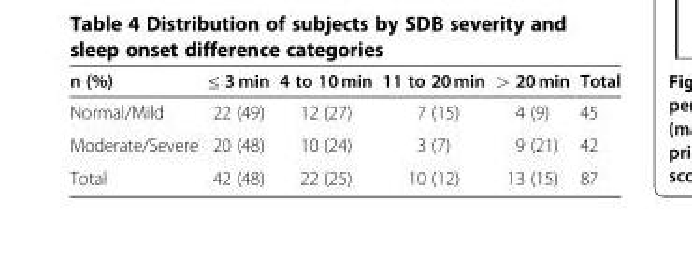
<table><thead><tr><td>n (%)</td><td>≤ 3 min</td><td>4 to 10 min</td><td>11 to 20 min</td><td>&gt; 20 min</td><td>Total</td></tr></thead><tbody><tr><td>Normal/Mild</td><td>22 (49)</td><td>12 (27)</td><td>7 (15)</td><td>4 (9)</td><td>45</td></tr><tr><td>Moderate/Severe</td><td>20 (48)</td><td>10 (24)</td><td>3 (7)</td><td>9 (21)</td><td>42</td></tr><tr><td>Total</td><td>42 (48)</td><td>22 (25)</td><td>10 (12)</td><td>13 (15)</td><td>87</td></tr></tbody></table>